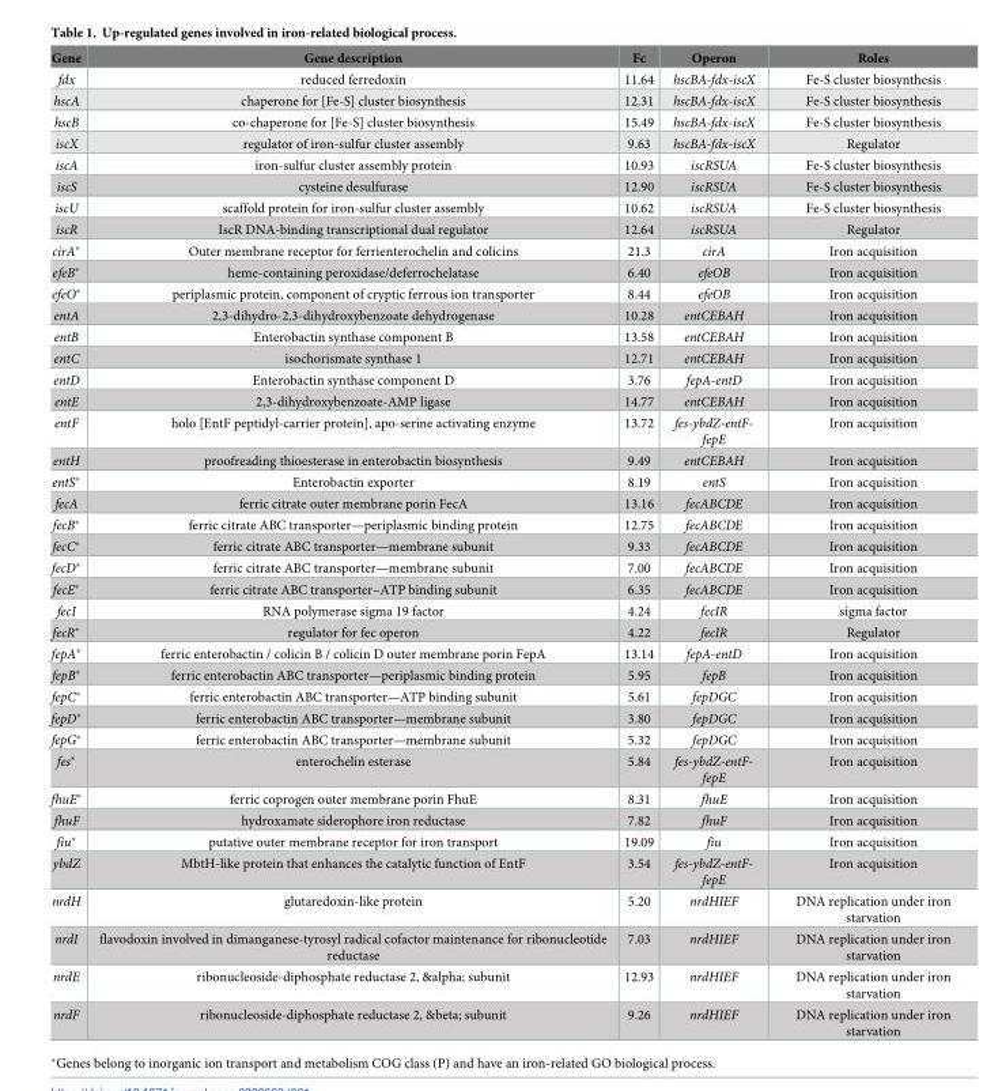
<table><thead><tr><td>Gene</td><td>Gene description</td><td>Fc</td><td>Operon</td><td>Roles</td></tr></thead><tbody><tr><td>fdx</td><td>reduced ferredoxin</td><td>11.64</td><td>hscBA-fdx-iscX</td><td>Fe-S cluster biosynthesis</td></tr><tr><td>hscA</td><td>chaperone for [Fe-S] cluster biosynthesis</td><td>12.31</td><td>hscBA-fdx-iscX</td><td>Fe-S cluster biosynthesis</td></tr><tr><td>hscB</td><td>co-chaperone for [Fe-S] cluster biosynthesis</td><td>15.49</td><td>hscBA-fdx-iscX</td><td>Fe-S cluster biosynthesis</td></tr><tr><td>iscX</td><td>regulator of iron-sulfur cluster assembly</td><td>9.63</td><td>hscBA-fdx-iscX</td><td>Regulator</td></tr><tr><td>iscA</td><td>iron-sulfur cluster assembly protein</td><td>10.93</td><td>iscRSUA</td><td>Fe-S cluster biosynthesis</td></tr><tr><td>iscS</td><td>cysteine desulfurase</td><td>12.90</td><td>iscRSUA</td><td>Fe-S cluster biosynthesis</td></tr><tr><td>iscU</td><td>scaffold protein for iron-sulfur cluster assembly</td><td>10.62</td><td>iscRSUA</td><td>Fe-S cluster biosynthesis</td></tr><tr><td>iscR</td><td>IscR DNA-binding transcriptional dual regulator</td><td>12.64</td><td>iscRSUA</td><td>Regulator</td></tr><tr><td>cirA*</td><td>Outer membrane receptor for ferrienterochelin and colicins</td><td>21.3</td><td>cirA</td><td>Iron acquisition</td></tr><tr><td>efeB*</td><td>heme-containing peroxidase/deferrochelatase</td><td>6.40</td><td>efeOB</td><td>Iron acquisition</td></tr><tr><td>efeO*</td><td>periplasmic protein, component of cryptic ferrous ion transporter</td><td>8.44</td><td>efeOB</td><td>Iron acquisition</td></tr><tr><td>entA</td><td>2,3-dihydro-2,3-dihydroxybenzoate dehydrogenase</td><td>10.28</td><td>entCEBAH</td><td>Iron acquisition</td></tr><tr><td>entB</td><td>Enterobactin synthase component B</td><td>13.58</td><td>entCEBAH</td><td>Iron acquisition</td></tr><tr><td>entC</td><td>isochorismate synthase 1</td><td>12.71</td><td>entCEBAH</td><td>Iron acquisition</td></tr><tr><td>entD</td><td>Enterobactin synthase component D</td><td>3.76</td><td>fepA-entD</td><td>Iron acquisition</td></tr><tr><td>entE</td><td>2,3-dihydroxybenzoate-AMP ligase</td><td>14.77</td><td>entCEBAH</td><td>Iron acquisition</td></tr><tr><td>entF</td><td>holo [EntF peptidyl-carrier protein], apo-serine activating enzyme</td><td>13.72</td><td>fes-ybdZ-entF- fepE</td><td>Iron acquisition</td></tr><tr><td>entH</td><td>proofreading thioesterase in enterobactin biosynthesis</td><td>9.49</td><td>entCEBAH</td><td>Iron acquisition</td></tr><tr><td>entS*</td><td>Enterobactin exporter</td><td>8.19</td><td>entS</td><td>Iron acquisition</td></tr><tr><td>fecA</td><td>ferric citrate outer membrane porin FecA</td><td>13.16</td><td>fecABCDE</td><td>Iron acquisition</td></tr><tr><td>fecB*</td><td>ferric citrate ABC transporter—periplasmic binding protein</td><td>12.75</td><td>fecABCDE</td><td>Iron acquisition</td></tr><tr><td>fecC*</td><td>ferric citrate ABC transporter—membrane subunit</td><td>9.33</td><td>fecABCDE</td><td>Iron acquisition</td></tr><tr><td>fecD*</td><td>ferric citrate ABC transporter—membrane subunit</td><td>7.00</td><td>fecABCDE</td><td>Iron acquisition</td></tr><tr><td>fecE*</td><td>ferric citrate ABC transporter–ATP binding subunit</td><td>6.35</td><td>fecABCDE</td><td>Iron acquisition</td></tr><tr><td>fecI</td><td>RNA polymerase sigma 19 factor</td><td>4.24</td><td>fecIR</td><td>sigma factor</td></tr><tr><td>fecR*</td><td>regulator for fec operon</td><td>4.22</td><td>fecIR</td><td>Regulator</td></tr><tr><td>fepA*</td><td>ferric enterobactin / colicin B / colicin D outer membrane porin FepA</td><td>13.14</td><td>fepA-entD</td><td>Iron acquisition</td></tr><tr><td>fepB*</td><td>ferric enterobactin ABC transporter—periplasmic binding protein</td><td>5.95</td><td>fepB</td><td>Iron acquisition</td></tr><tr><td>fepC*</td><td>ferric enterobactin ABC transporter—ATP binding subunit</td><td>5.61</td><td>fepDGC</td><td>Iron acquisition</td></tr><tr><td>fepD*</td><td>ferric enterobactin ABC transporter—membrane subunit</td><td>3.80</td><td>fepDGC</td><td>Iron acquisition</td></tr><tr><td>fepG*</td><td>ferric enterobactin ABC transporter—membrane subunit</td><td>5.32</td><td>fepDGC</td><td>Iron acquisition</td></tr><tr><td>fes*</td><td>enterochelin esterase</td><td>5.84</td><td>fes-ybdZ-entF- fepE</td><td>Iron acquisition</td></tr><tr><td>fhuE*</td><td>ferric coprogen outer membrane porin FhuE</td><td>8.31</td><td>fhuE</td><td>Iron acquisition</td></tr><tr><td>fhuF</td><td>hydroxamate siderophore iron reductase</td><td>7.82</td><td>fhuF</td><td>Iron acquisition</td></tr><tr><td>fiu*</td><td>putative outer membrane receptor for iron transport</td><td>19.09</td><td>fiu</td><td>Iron acquisition</td></tr><tr><td>ybdZ</td><td>MbtH-like protein that enhances the catalytic function of EntF</td><td>3.54</td><td>fes-ybdZ-entF- fepE</td><td>Iron acquisition</td></tr><tr><td>nrdH</td><td>glutaredoxin-like protein</td><td>5.20</td><td>nrdHIEF</td><td>DNA replication under iron starvation</td></tr><tr><td>nrdI</td><td>flavodoxin involved in dimanganese-tyrosyl radical cofactor maintenance for ribonucleotide reductase</td><td>7.03</td><td>nrdHIEF</td><td>DNA replication under iron starvation</td></tr><tr><td>nrdE</td><td>ribonucleoside-diphosphate reductase 2, &amp;alpha; subunit</td><td>12.93</td><td>nrdHIEF</td><td>DNA replication under iron starvation</td></tr><tr><td>nrdF</td><td>ribonucleoside-diphosphate reductase 2, &amp;beta; subunit</td><td>9.26</td><td>nrdHIEF</td><td>DNA replication under iron starvation</td></tr></tbody></table>